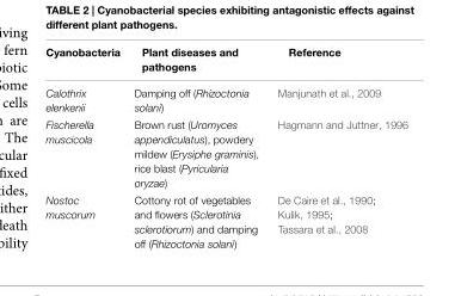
<table><thead><tr><td>Cyanobacteria</td><td>Plant diseases and pathogens</td><td>Reference</td></tr></thead><tbody><tr><td>Calothrix elenkenii</td><td>Damping off (Rhizoctonia solani)</td><td>Manjunath et al., 2009</td></tr><tr><td>Fischerella muscicola</td><td>Brown rust (Uromyces appendiculatus), powdery mildew (Erysiphe graminis), rice blast (Pyricularia oryzae)</td><td>Hagmann and Juttner, 1996</td></tr><tr><td>Nostoc muscorum</td><td>Cottony rot of vegetables and flowers (Sclerotinia sclerotiorum) and damping off (Rhizoctonia solani)</td><td>De Caire et al., 1990; Kulik, 1995; Tassara et al., 2008</td></tr></tbody></table>